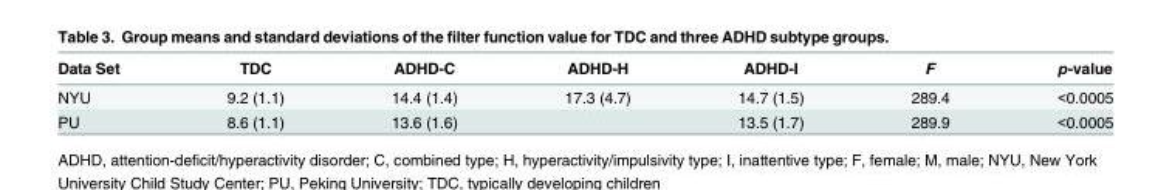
<table><thead><tr><td>Data Set</td><td>TDC</td><td>ADHD-C</td><td>ADHD-H</td><td>ADHD-I</td><td>F</td><td>p-value</td></tr></thead><tbody><tr><td>NYU</td><td>9.2 (1.1)</td><td>14.4 (1.4)</td><td>17.3 (4.7)</td><td>14.7 (1.5)</td><td>289.4</td><td>&lt;0.0005</td></tr><tr><td>PU</td><td>8.6 (1.1)</td><td>13.6 (1.6)</td><td></td><td>13.5 (1.7)</td><td>289.9</td><td>&lt;0.0005</td></tr></tbody></table>